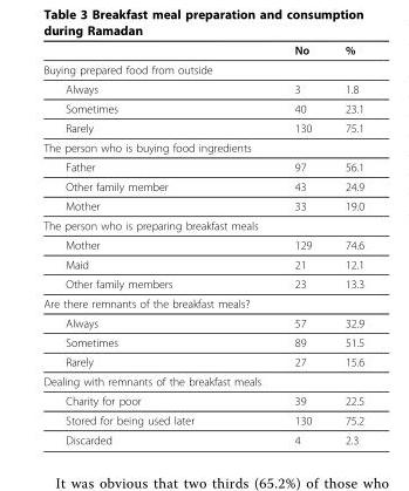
<table><thead><tr><td></td><td>No</td><td>%</td></tr></thead><tbody><tr><td colspan="3">Buying prepared food from outside</td></tr><tr><td>Always</td><td>3</td><td>1.8</td></tr><tr><td>Sometimes</td><td>40</td><td>23.1</td></tr><tr><td>Rarely</td><td>130</td><td>75.1</td></tr><tr><td colspan="3">The person who is buying food ingredients</td></tr><tr><td>Father</td><td>97</td><td>56.1</td></tr><tr><td>Other family member</td><td>43</td><td>24.9</td></tr><tr><td>Mother</td><td>33</td><td>19.0</td></tr><tr><td colspan="3">The person who is preparing breakfast meals</td></tr><tr><td>Mother</td><td>129</td><td>74.6</td></tr><tr><td>Maid</td><td>21</td><td>12.1</td></tr><tr><td>Other family members</td><td>23</td><td>13.3</td></tr><tr><td colspan="3">Are there remnants of the breakfast meals?</td></tr><tr><td>Always</td><td>57</td><td>32.9</td></tr><tr><td>Sometimes</td><td>89</td><td>51.5</td></tr><tr><td>Rarely</td><td>27</td><td>15.6</td></tr><tr><td colspan="3">Dealing with remnants of the breakfast meals</td></tr><tr><td>Charity for poor</td><td>39</td><td>22.5</td></tr><tr><td>Stored for being used later</td><td>130</td><td>75.2</td></tr><tr><td>Discarded</td><td>4</td><td>2.3</td></tr></tbody></table>